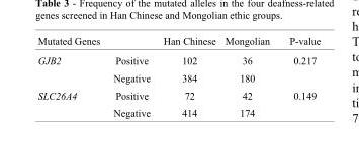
<table><thead><tr><td>Mutated Genes</td><td></td><td>Han Chinese</td><td>Mongolian</td><td>P-value</td></tr></thead><tbody><tr><td rowspan="2">GJB2</td><td>Positive</td><td>102</td><td>36</td><td>0.217</td></tr><tr><td>Negative</td><td>384</td><td>180</td><td></td></tr><tr><td rowspan="2">SLC26A4</td><td>Positive</td><td>72</td><td>42</td><td>0.149</td></tr><tr><td>Negative</td><td>414</td><td>174</td><td></td></tr></tbody></table>